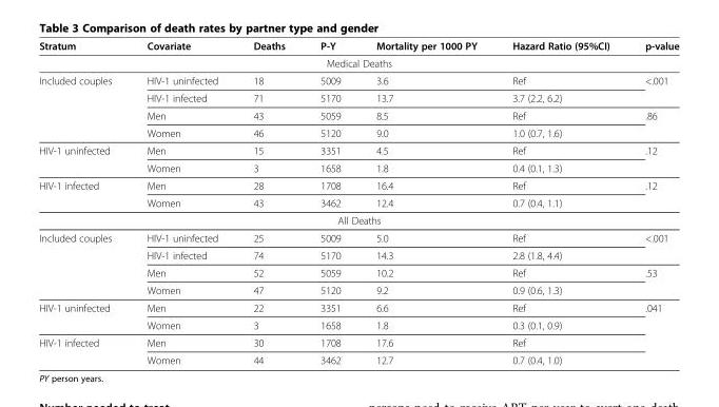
<table><thead><tr><td>Stratum</td><td>Covariate</td><td>Deaths</td><td>P-Y</td><td>Mortality per 1000 PY</td><td>Hazard Ratio (95%CI)</td><td>p-value</td></tr></thead><tbody><tr><td colspan="7">Medical Deaths</td></tr><tr><td rowspan="4">Included couples</td><td>HIV-1 uninfected</td><td>18</td><td>5009</td><td>3.6</td><td>Ref</td><td>&lt;.001</td></tr><tr><td>HIV-1 infected</td><td>71</td><td>5170</td><td>13.7</td><td>3.7 (2.2, 6.2)</td><td></td></tr><tr><td>Men</td><td>43</td><td>5059</td><td>8.5</td><td>Ref</td><td>.86</td></tr><tr><td>Women</td><td>46</td><td>5120</td><td>9.0</td><td>1.0 (0.7, 1.6)</td><td></td></tr><tr><td rowspan="2">HIV-1 uninfected</td><td>Men</td><td>15</td><td>3351</td><td>4.5</td><td>Ref</td><td>.12</td></tr><tr><td>Women</td><td>3</td><td>1658</td><td>1.8</td><td>0.4 (0.1, 1.3)</td><td></td></tr><tr><td rowspan="2">HIV-1 infected</td><td>Men</td><td>28</td><td>1708</td><td>16.4</td><td>Ref</td><td>.12</td></tr><tr><td>Women</td><td>43</td><td>3462</td><td>12.4</td><td>0.7 (0.4, 1.1)</td><td></td></tr><tr><td colspan="7">All Deaths</td></tr><tr><td rowspan="4">Included couples</td><td>HIV-1 uninfected</td><td>25</td><td>5009</td><td>5.0</td><td>Ref</td><td>&lt;.001</td></tr><tr><td>HIV-1 infected</td><td>74</td><td>5170</td><td>14.3</td><td>2.8 (1.8, 4.4)</td><td></td></tr><tr><td>Men</td><td>52</td><td>5059</td><td>10.2</td><td>Ref</td><td>.53</td></tr><tr><td>Women</td><td>47</td><td>5120</td><td>9.2</td><td>0.9 (0.6, 1.3)</td><td></td></tr><tr><td rowspan="2">HIV-1 uninfected</td><td>Men</td><td>22</td><td>3351</td><td>6.6</td><td>Ref</td><td>.041</td></tr><tr><td>Women</td><td>3</td><td>1658</td><td>1.8</td><td>0.3 (0.1, 0.9)</td><td></td></tr><tr><td rowspan="2">HIV-1 infected</td><td>Men</td><td>30</td><td>1708</td><td>17.6</td><td>Ref</td><td></td></tr><tr><td>Women</td><td>44</td><td>3462</td><td>12.7</td><td>0.7 (0.4, 1.0)</td><td></td></tr></tbody></table>